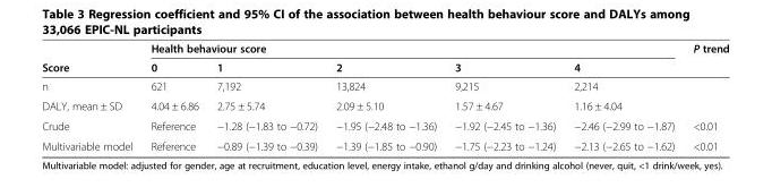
<table><thead><tr><td rowspan="2">Score</td><td colspan="5">Health behaviour score</td><td rowspan="2">P trend</td></tr><tr><td>0</td><td>1</td><td>2</td><td>3</td><td>4</td></tr></thead><tbody><tr><td>n</td><td>621</td><td>7,192</td><td>13,824</td><td>9,215</td><td>2,214</td><td></td></tr><tr><td>DALY, mean ± SD</td><td>4.04 ± 6.86</td><td>2.75 ± 5.74</td><td>2.09 ± 5.10</td><td>1.57 ± 4.67</td><td>1.16 ± 4.04</td><td></td></tr><tr><td>Crude</td><td>Reference</td><td>−1.28 (−1.83 to −0.72)</td><td>−1.95 (−2.48 to −1.36)</td><td>−1.92 (−2.45 to −1.36)</td><td>−2.46 (−2.99 to −1.87)</td><td>&lt;0.01</td></tr><tr><td>Multivariable model</td><td>Reference</td><td>−0.89 (−1.39 to −0.39)</td><td>−1.39 (−1.85 to −0.90)</td><td>−1.75 (−2.23 to −1.24)</td><td>−2.13 (−2.65 to −1.62)</td><td>&lt;0.01</td></tr></tbody></table>